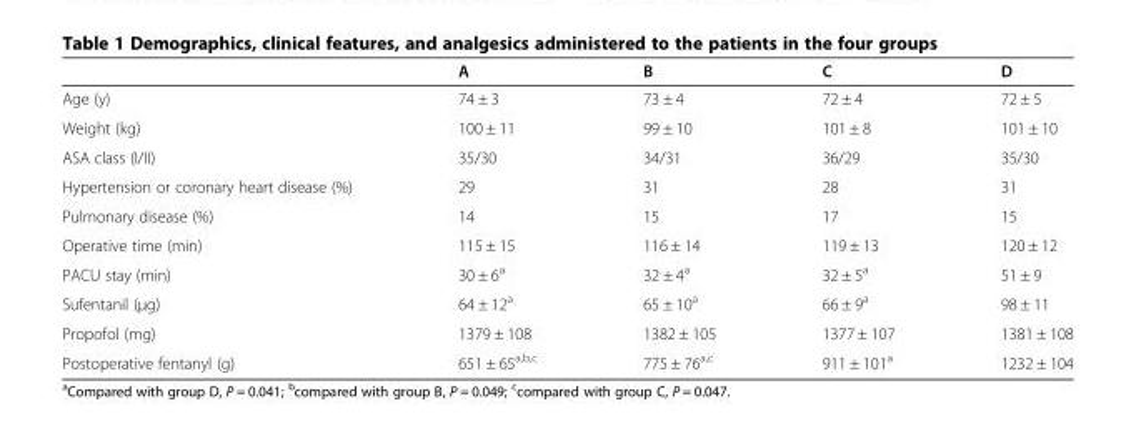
<table><thead><tr><td></td><td>A</td><td>B</td><td>C</td><td>D</td></tr></thead><tbody><tr><td>Age (y)</td><td>74 ± 3</td><td>73 ± 4</td><td>72 ± 4</td><td>72 ± 5</td></tr><tr><td>Weight (kg)</td><td>100 ± 11</td><td>99 ± 10</td><td>101 ± 8</td><td>101 ± 10</td></tr><tr><td>ASA class (I/II)</td><td>35/30</td><td>34/31</td><td>36/29</td><td>35/30</td></tr><tr><td>Hypertension or coronary heart disease (%)</td><td>29</td><td>31</td><td>28</td><td>31</td></tr><tr><td>Pulmonary disease (%)</td><td>14</td><td>15</td><td>17</td><td>15</td></tr><tr><td>Operative time (min)</td><td>115 ± 15</td><td>116 ± 14</td><td>119 ± 13</td><td>120 ± 12</td></tr><tr><td>PACU stay (min)</td><td>30 ± 6<sup>a</sup></td><td>32 ± 4<sup>a</sup></td><td>32 ± 5<sup>a</sup></td><td>51 ± 9</td></tr><tr><td>Sufentanil (μg)</td><td>64 ± 12<sup>a</sup></td><td>65 ± 10<sup>a</sup></td><td>66 ± 9<sup>a</sup></td><td>98 ± 11</td></tr><tr><td>Propofol (mg)</td><td>1379 ± 108</td><td>1382 ± 105</td><td>1377 ± 107</td><td>1381 ± 108</td></tr><tr><td>Postoperative fentanyl (g)</td><td>651 ± 65<sup>a,b,c</sup></td><td>775 ± 76<sup>a,c</sup></td><td>911 ± 101<sup>a</sup></td><td>1232 ± 104</td></tr></tbody></table>